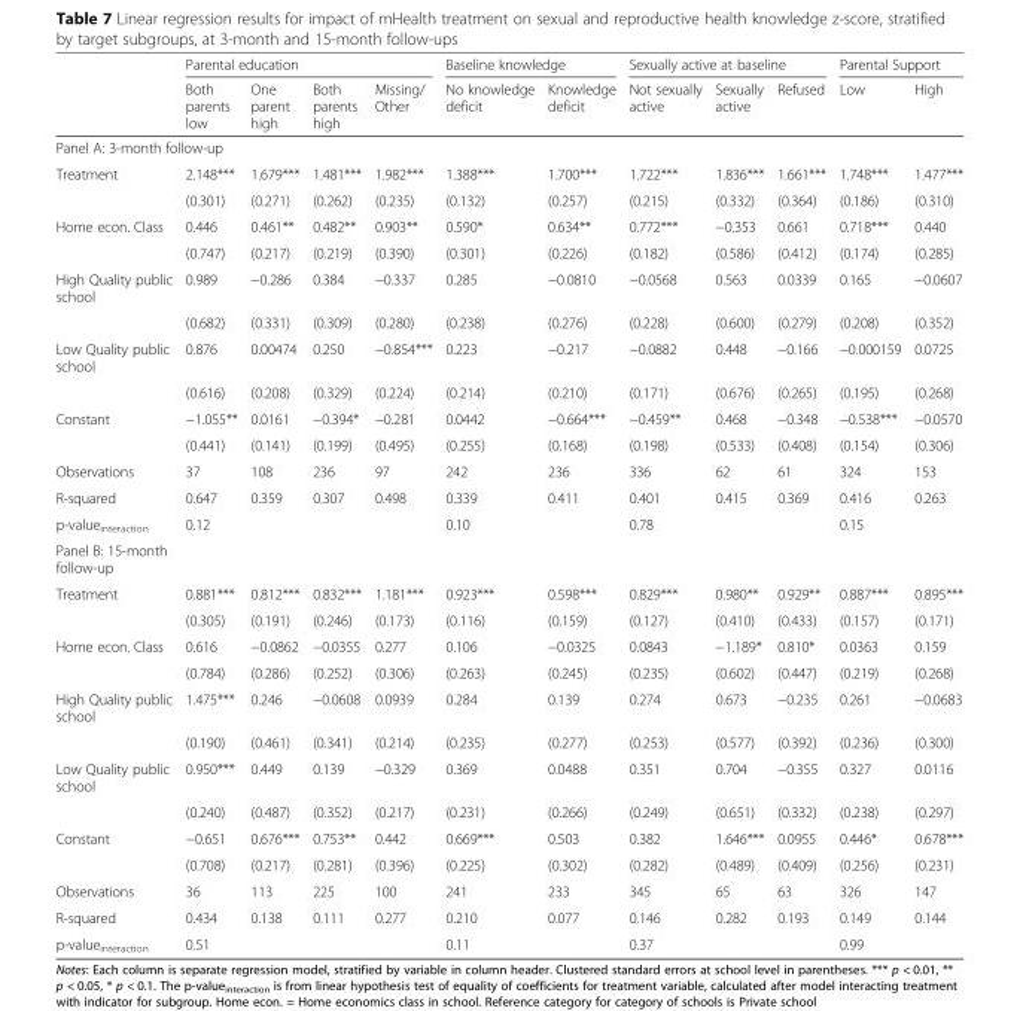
<table><thead><tr><td rowspan="2"></td><td colspan="4">Parental education</td><td colspan="2">Baseline knowledge</td><td colspan="3">Sexually active at baseline</td><td colspan="2">Parental Support</td></tr><tr><td>Both parents low</td><td>One parent high</td><td>Both parents high</td><td>Missing/ Other</td><td>No knowledge deficit</td><td>Knowledge deficit</td><td>Not sexually active</td><td>Sexually active</td><td>Refused</td><td>Low</td><td>High</td></tr></thead><tbody><tr><td colspan="12">Panel A: 3-month follow-up</td></tr><tr><td rowspan="2">Treatment</td><td>2.148***</td><td>1.679***</td><td>1.481***</td><td>1.982***</td><td>1.388***</td><td>1.700***</td><td>1.722***</td><td>1.836***</td><td>1.661***</td><td>1.748***</td><td>1.477***</td></tr><tr><td>(0.301)</td><td>(0.271)</td><td>(0.262)</td><td>(0.235)</td><td>(0.132)</td><td>(0.257)</td><td>(0.215)</td><td>(0.332)</td><td>(0.364)</td><td>(0.186)</td><td>(0.310)</td></tr><tr><td rowspan="2">Home econ. Class</td><td>0.446</td><td>0.461**</td><td>0.482**</td><td>0.903**</td><td>0.590*</td><td>0.634**</td><td>0.772***</td><td>−0.353</td><td>0.661</td><td>0.718***</td><td>0.440</td></tr><tr><td>(0.747)</td><td>(0.217)</td><td>(0.219)</td><td>(0.390)</td><td>(0.301)</td><td>(0.226)</td><td>(0.182)</td><td>(0.586)</td><td>(0.412)</td><td>(0.174)</td><td>(0.285)</td></tr><tr><td rowspan="2">High Quality public school</td><td>0.989</td><td>−0.286</td><td>0.384</td><td>−0.337</td><td>0.285</td><td>−0.0810</td><td>−0.0568</td><td>0.563</td><td>0.0339</td><td>0.165</td><td>−0.0607</td></tr><tr><td>(0.682)</td><td>(0.331)</td><td>(0.309)</td><td>(0.280)</td><td>(0.238)</td><td>(0.276)</td><td>(0.228)</td><td>(0.600)</td><td>(0.279)</td><td>(0.208)</td><td>(0.352)</td></tr><tr><td rowspan="2">Low Quality public school</td><td>0.876</td><td>0.00474</td><td>0.250</td><td>−0.854***</td><td>0.223</td><td>−0.217</td><td>−0.0882</td><td>0.448</td><td>−0.166</td><td>−0.000159</td><td>0.0725</td></tr><tr><td>(0.616)</td><td>(0.208)</td><td>(0.329)</td><td>(0.224)</td><td>(0.214)</td><td>(0.210)</td><td>(0.171)</td><td>(0.676)</td><td>(0.265)</td><td>(0.195)</td><td>(0.268)</td></tr><tr><td rowspan="2">Constant</td><td>−1.055**</td><td>0.0161</td><td>−0.394*</td><td>−0.281</td><td>0.0442</td><td>−0.664***</td><td>−0.459**</td><td>0.468</td><td>−0.348</td><td>−0.538***</td><td>−0.0570</td></tr><tr><td>(0.441)</td><td>(0.141)</td><td>(0.199)</td><td>(0.495)</td><td>(0.255)</td><td>(0.168)</td><td>(0.198)</td><td>(0.533)</td><td>(0.408)</td><td>(0.154)</td><td>(0.306)</td></tr><tr><td>Observations</td><td>37</td><td>108</td><td>236</td><td>97</td><td>242</td><td>236</td><td>336</td><td>62</td><td>61</td><td>324</td><td>153</td></tr><tr><td>R-squared</td><td>0.647</td><td>0.359</td><td>0.307</td><td>0.498</td><td>0.339</td><td>0.411</td><td>0.401</td><td>0.415</td><td>0.369</td><td>0.416</td><td>0.263</td></tr><tr><td>p-value<sub>interaction</sub></td><td colspan="4">0.12</td><td colspan="2">0.10</td><td colspan="3">0.78</td><td colspan="2">0.15</td></tr><tr><td colspan="12">Panel B: 15-month follow-up</td></tr><tr><td rowspan="2">Treatment</td><td>0.881***</td><td>0.812***</td><td>0.832***</td><td>1.181***</td><td>0.923***</td><td>0.598***</td><td>0.829***</td><td>0.980**</td><td>0.929**</td><td>0.887***</td><td>0.895***</td></tr><tr><td>(0.305)</td><td>(0.191)</td><td>(0.246)</td><td>(0.173)</td><td>(0.116)</td><td>(0.159)</td><td>(0.127)</td><td>(0.410)</td><td>(0.433)</td><td>(0.157)</td><td>(0.171)</td></tr><tr><td rowspan="2">Home econ. Class</td><td>0.616</td><td>−0.0862</td><td>−0.0355</td><td>0.277</td><td>0.106</td><td>−0.0325</td><td>0.0843</td><td>−1.189*</td><td>0.810*</td><td>0.0363</td><td>0.159</td></tr><tr><td>(0.784)</td><td>(0.286)</td><td>(0.252)</td><td>(0.306)</td><td>(0.263)</td><td>(0.245)</td><td>(0.235)</td><td>(0.602)</td><td>(0.447)</td><td>(0.219)</td><td>(0.268)</td></tr><tr><td rowspan="2">High Quality public school</td><td>1.475***</td><td>0.246</td><td>−0.0608</td><td>0.0939</td><td>0.284</td><td>0.139</td><td>0.274</td><td>0.673</td><td>−0.235</td><td>0.261</td><td>−0.0683</td></tr><tr><td>(0.190)</td><td>(0.461)</td><td>(0.341)</td><td>(0.214)</td><td>(0.235)</td><td>(0.277)</td><td>(0.253)</td><td>(0.577)</td><td>(0.392)</td><td>(0.236)</td><td>(0.300)</td></tr><tr><td rowspan="2">Low Quality public school</td><td>0.950***</td><td>0.449</td><td>0.139</td><td>−0.329</td><td>0.369</td><td>0.0488</td><td>0.351</td><td>0.704</td><td>−0.355</td><td>0.327</td><td>0.0116</td></tr><tr><td>(0.240)</td><td>(0.487)</td><td>(0.352)</td><td>(0.217)</td><td>(0.231)</td><td>(0.266)</td><td>(0.249)</td><td>(0.651)</td><td>(0.332)</td><td>(0.238)</td><td>(0.297)</td></tr><tr><td rowspan="2">Constant</td><td>−0.651</td><td>0.676***</td><td>0.753**</td><td>0.442</td><td>0.669***</td><td>0.503</td><td>0.382</td><td>1.646***</td><td>0.0955</td><td>0.446*</td><td>0.678***</td></tr><tr><td>(0.708)</td><td>(0.217)</td><td>(0.281)</td><td>(0.396)</td><td>(0.225)</td><td>(0.302)</td><td>(0.282)</td><td>(0.489)</td><td>(0.409)</td><td>(0.256)</td><td>(0.231)</td></tr><tr><td>Observations</td><td>36</td><td>113</td><td>225</td><td>100</td><td>241</td><td>233</td><td>345</td><td>65</td><td>63</td><td>326</td><td>147</td></tr><tr><td>R-squared</td><td>0.434</td><td>0.138</td><td>0.111</td><td>0.277</td><td>0.210</td><td>0.077</td><td>0.146</td><td>0.282</td><td>0.193</td><td>0.149</td><td>0.144</td></tr><tr><td>p-value<sub>interaction</sub></td><td colspan="4">0.51</td><td colspan="2">0.11</td><td colspan="3">0.37</td><td colspan="2">0.99</td></tr></tbody></table>